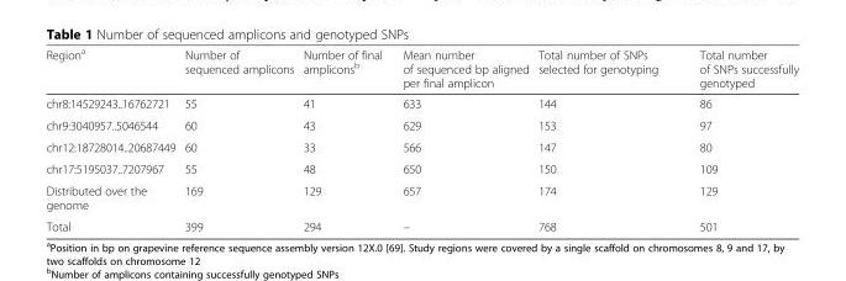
<table><thead><tr><td>Region<sup>a</sup></td><td>Number of sequenced amplicons</td><td>Number of final amplicons<sup>b</sup></td><td>Mean number of sequenced bp aligned per final amplicon</td><td>Total number of SNPs selected for genotyping</td><td>Total number of SNPs successfully genotyped</td></tr></thead><tbody><tr><td>chr8:14529243..16762721</td><td>55</td><td>41</td><td>633</td><td>144</td><td>86</td></tr><tr><td>chr9:3040957..5046544</td><td>60</td><td>43</td><td>629</td><td>153</td><td>97</td></tr><tr><td>chr12:18728014..20687449</td><td>60</td><td>33</td><td>566</td><td>147</td><td>80</td></tr><tr><td>chr17:5195037..7207967</td><td>55</td><td>48</td><td>650</td><td>150</td><td>109</td></tr><tr><td>Distributed over the genome</td><td>169</td><td>129</td><td>657</td><td>174</td><td>129</td></tr><tr><td>Total</td><td>399</td><td>294</td><td>–</td><td>768</td><td>501</td></tr></tbody></table>